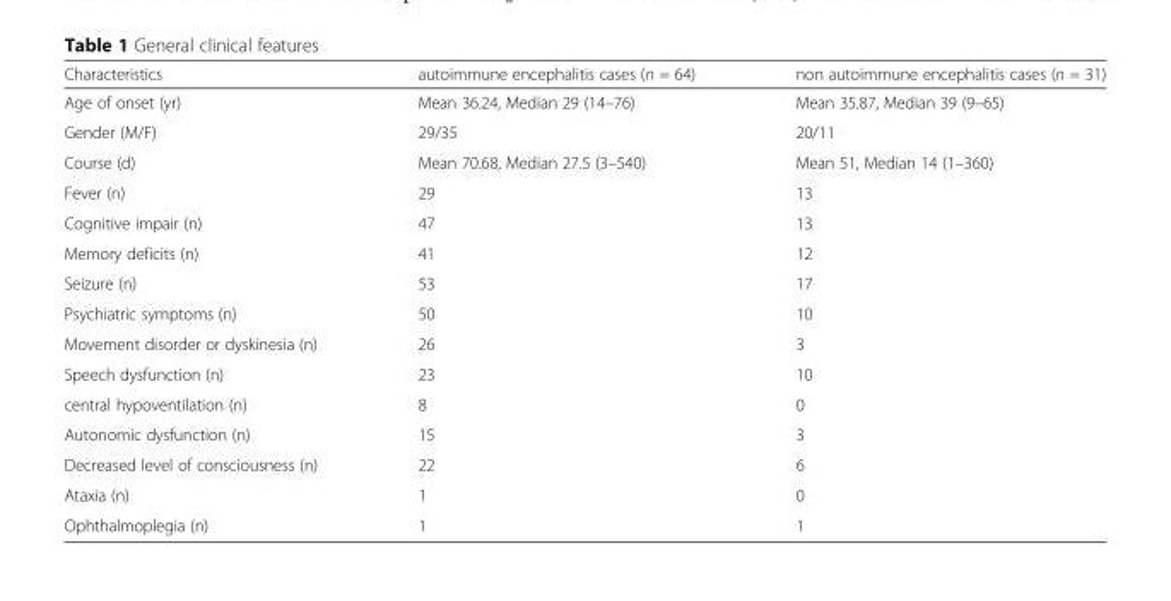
<table><thead><tr><td>Characteristics</td><td>autoimmune encephalitis cases (n = 64)</td><td>non autoimmune encephalitis cases (n = 31)</td></tr></thead><tbody><tr><td>Age of onset (yr)</td><td>Mean 36.24, Median 29 (14–76)</td><td>Mean 35.87, Median 39 (9–65)</td></tr><tr><td>Gender (M/F)</td><td>29/35</td><td>20/11</td></tr><tr><td>Course (d)</td><td>Mean 70.68, Median 27.5 (3–540)</td><td>Mean 51, Median 14 (1–360)</td></tr><tr><td>Fever (n)</td><td>29</td><td>13</td></tr><tr><td>Cognitive impair (n)</td><td>47</td><td>13</td></tr><tr><td>Memory deficits (n)</td><td>41</td><td>12</td></tr><tr><td>Seizure (n)</td><td>53</td><td>17</td></tr><tr><td>Psychiatric symptoms (n)</td><td>50</td><td>10</td></tr><tr><td>Movement disorder or dyskinesia (n)</td><td>26</td><td>3</td></tr><tr><td>Speech dysfunction (n)</td><td>23</td><td>10</td></tr><tr><td>central hypoventilation (n)</td><td>8</td><td>0</td></tr><tr><td>Autonomic dysfunction (n)</td><td>15</td><td>3</td></tr><tr><td>Decreased level of consciousness (n)</td><td>22</td><td>6</td></tr><tr><td>Ataxia (n)</td><td>1</td><td>0</td></tr><tr><td>Ophthalmoplegia (n)</td><td>1</td><td>1</td></tr></tbody></table>